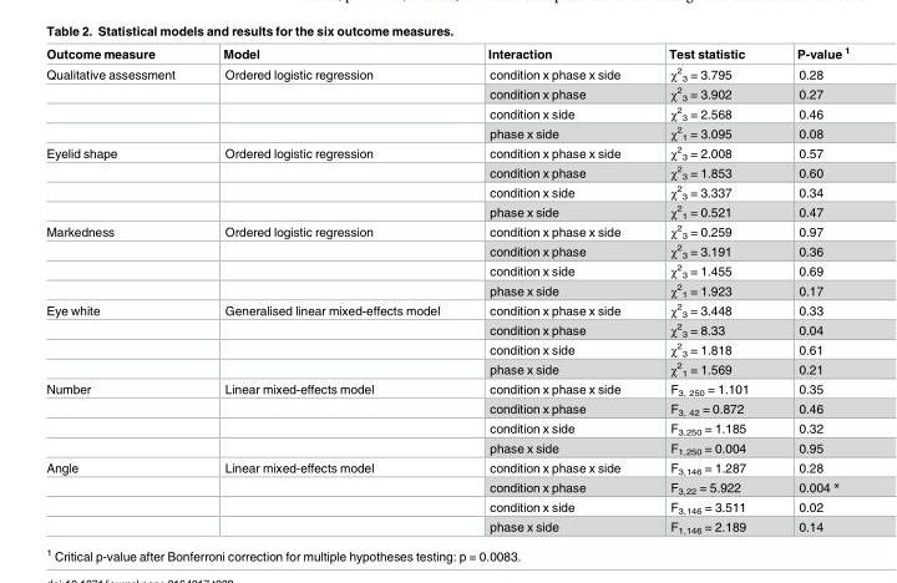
<table><thead><tr><td>Outcome measure</td><td>Model</td><td>Interaction</td><td>Test statistic</td><td>P-value <sup>1</sup></td></tr></thead><tbody><tr><td rowspan="4">Qualitative assessment</td><td>Ordered logistic regression</td><td>condition x phase x side</td><td>χ<sup>2</sup> <sub>3</sub> = 3.795</td><td>0.28</td></tr><tr><td></td><td>condition x phase</td><td>χ<sup>2</sup> <sub>3</sub> = 3.902</td><td>0.27</td></tr><tr><td></td><td>condition x side</td><td>χ<sup>2</sup> <sub>3</sub> = 2.568</td><td>0.46</td></tr><tr><td></td><td>phase x side</td><td>χ<sup>2</sup> <sub>1</sub> = 3.095</td><td>0.08</td></tr><tr><td rowspan="4">Eyelid shape</td><td>Ordered logistic regression</td><td>condition x phase x side</td><td>χ<sup>2</sup> <sub>3</sub> = 2.008</td><td>0.57</td></tr><tr><td></td><td>condition x phase</td><td>χ<sup>2</sup> <sub>3</sub> = 1.853</td><td>0.60</td></tr><tr><td></td><td>condition x side</td><td>χ<sup>2</sup> <sub>3</sub> = 3.337</td><td>0.34</td></tr><tr><td></td><td>phase x side</td><td>χ<sup>2</sup> <sub>1</sub> = 0.521</td><td>0.47</td></tr><tr><td rowspan="4">Markedness</td><td>Ordered logistic regression</td><td>condition x phase x side</td><td>χ<sup>2</sup> <sub>3</sub> = 0.259</td><td>0.97</td></tr><tr><td></td><td>condition x phase</td><td>χ<sup>2</sup> <sub>3</sub> = 3.191</td><td>0.36</td></tr><tr><td></td><td>condition x side</td><td>χ<sup>2</sup> <sub>3</sub> = 1.455</td><td>0.69</td></tr><tr><td></td><td>phase x side</td><td>χ<sup>2</sup> <sub>1</sub> = 1.923</td><td>0.17</td></tr><tr><td rowspan="4">Eye white</td><td>Generalised linear mixed-effects model</td><td>condition x phase x side</td><td>χ<sup>2</sup> <sub>3</sub> = 3.448</td><td>0.33</td></tr><tr><td></td><td>condition x phase</td><td>χ<sup>2</sup> <sub>3</sub> = 8.33</td><td>0.04</td></tr><tr><td></td><td>condition x side</td><td>χ<sup>2</sup> <sub>3</sub> = 1.818</td><td>0.61</td></tr><tr><td></td><td>phase x side</td><td>χ<sup>2</sup> <sub>1</sub> = 1.569</td><td>0.21</td></tr><tr><td rowspan="4">Number</td><td>Linear mixed-effects model</td><td>condition x phase x side</td><td>F<sub>3, 250</sub> = 1.101</td><td>0.35</td></tr><tr><td></td><td>condition x phase</td><td>F<sub>3, 42</sub> = 0.872</td><td>0.46</td></tr><tr><td></td><td>condition x side</td><td>F<sub>3,250</sub> = 1.185</td><td>0.32</td></tr><tr><td></td><td>phase x side</td><td>F<sub>1,250</sub> = 0.004</td><td>0.95</td></tr><tr><td rowspan="4">Angle</td><td>Linear mixed-effects model</td><td>condition x phase x side</td><td>F<sub>3,146</sub> = 1.287</td><td>0.28</td></tr><tr><td></td><td>condition x phase</td><td>F<sub>3,22</sub> = 5.922</td><td>0.004 *</td></tr><tr><td></td><td>condition x side</td><td>F<sub>3,146</sub> = 3.511</td><td>0.02</td></tr><tr><td></td><td>phase x side</td><td>F<sub>1,146</sub> = 2.189</td><td>0.14</td></tr></tbody></table>